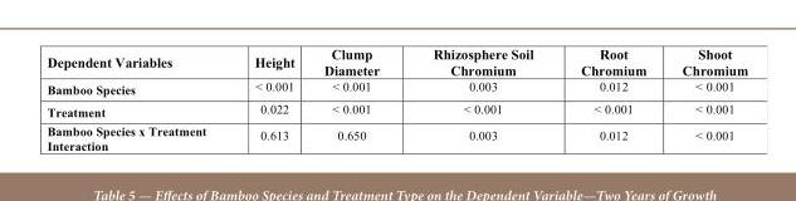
<table><thead><tr><td>Dependent Variables</td><td>Height</td><td>Clump Diameter</td><td>Rhizosphere Soil Chromium</td><td>Root Chromium</td><td>Shoot Chromium</td></tr></thead><tbody><tr><td>Bamboo Species</td><td>&lt; 0.001</td><td>&lt; 0.001</td><td>0.003</td><td>0.012</td><td>&lt; 0.001</td></tr><tr><td>Treatment</td><td>0.022</td><td>&lt; 0.001</td><td>&lt; 0.001</td><td>&lt; 0.001</td><td>&lt; 0.001</td></tr><tr><td>Bamboo Species x Treatment Interaction</td><td>0.613</td><td>0.650</td><td>0.003</td><td>0.012</td><td>&lt; 0.001</td></tr></tbody></table>